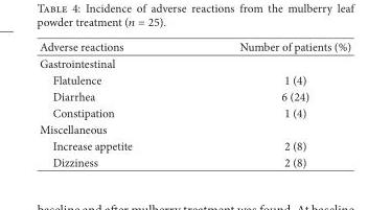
<table><thead><tr><td>Adverse reactions</td><td>Number of patients (%)</td></tr></thead><tbody><tr><td colspan="2">Gastrointestinal</td></tr><tr><td>Flatulence</td><td>1 (4)</td></tr><tr><td>Diarrhea</td><td>6 (24)</td></tr><tr><td>Constipation</td><td>1 (4)</td></tr><tr><td colspan="2">Miscellaneous</td></tr><tr><td>Increase appetite</td><td>2 (8)</td></tr><tr><td>Dizziness</td><td>2 (8)</td></tr></tbody></table>